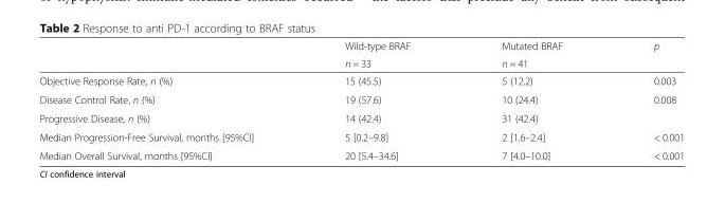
<table><thead><tr><td rowspan="2"></td><td rowspan="2">Wild-type BRAF n = 33</td><td rowspan="2">Mutated BRAF n = 41</td><td rowspan="2">p</td></tr><tr></tr></thead><tbody><tr><td>Objective Response Rate, n (%)</td><td>15 (45.5)</td><td>5 (12.2)</td><td>0.003</td></tr><tr><td>Disease Control Rate, n (%)</td><td>19 (57.6)</td><td>10 (24.4)</td><td>0.008</td></tr><tr><td>Progressive Disease, n (%)</td><td>14 (42.4)</td><td>31 (42.4)</td><td></td></tr><tr><td>Median Progression-Free Survival, months [95%CI]</td><td>5 [0.2–9.8]</td><td>2 [1.6–2.4]</td><td>&lt; 0.001</td></tr><tr><td>Median Overall Survival, months [95%CI]</td><td>20 [5.4–34.6]</td><td>7 [4.0–10.0]</td><td>&lt; 0.001</td></tr></tbody></table>